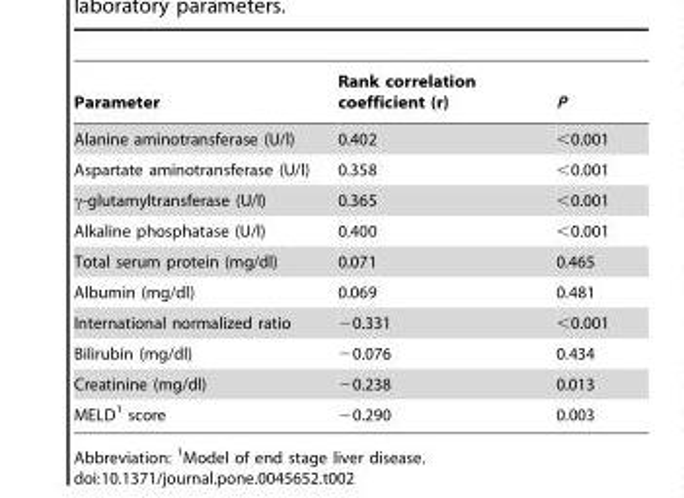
<table><thead><tr><td>Parameter</td><td>Rank correlation coefficient (r)</td><td>P</td></tr></thead><tbody><tr><td>Alanine aminotransferase (U/l)</td><td>0.402</td><td>&lt;0.001</td></tr><tr><td>Aspartate aminotransferase (U/l)</td><td>0.358</td><td>&lt;0.001</td></tr><tr><td>γ-glutamyltransferase (U/l)</td><td>0.365</td><td>&lt;0.001</td></tr><tr><td>Alkaline phosphatase (U/l)</td><td>0.400</td><td>&lt;0.001</td></tr><tr><td>Total serum protein (mg/dl)</td><td>0.071</td><td>0.465</td></tr><tr><td>Albumin (mg/dl)</td><td>0.069</td><td>0.481</td></tr><tr><td>International normalized ratio</td><td>−0.331</td><td>&lt;0.001</td></tr><tr><td>Bilirubin (mg/dl)</td><td>−0.076</td><td>0.434</td></tr><tr><td>Creatinine (mg/dl)</td><td>−0.238</td><td>0.013</td></tr><tr><td>MELD<sup>1</sup> score</td><td>−0.290</td><td>0.003</td></tr></tbody></table>